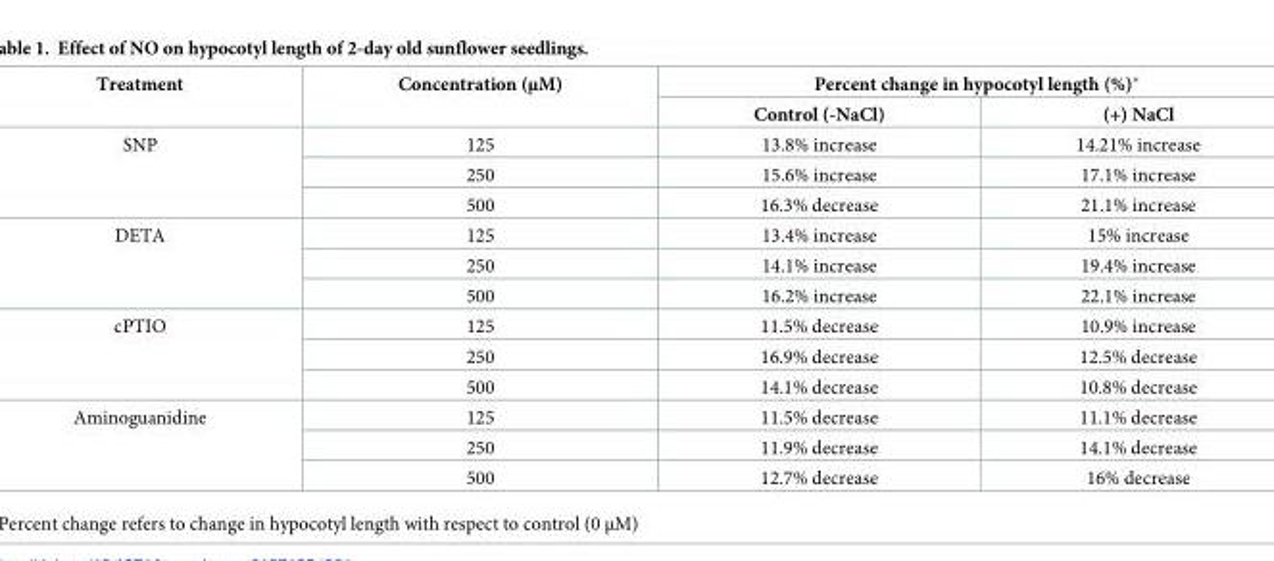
<table><thead><tr><td rowspan="2">Treatment</td><td rowspan="2">Concentration (μM)</td><td colspan="2">Percent change in hypocotyl length (%)*</td></tr><tr><td>Control (-NaCl)</td><td>(+) NaCl</td></tr></thead><tbody><tr><td rowspan="3">SNP</td><td>125</td><td>13.8% increase</td><td>14.21% increase</td></tr><tr><td>250</td><td>15.6% increase</td><td>17.1% increase</td></tr><tr><td>500</td><td>16.3% decrease</td><td>21.1% increase</td></tr><tr><td rowspan="3">DETA</td><td>125</td><td>13.4% increase</td><td>15% increase</td></tr><tr><td>250</td><td>14.1% increase</td><td>19.4% increase</td></tr><tr><td>500</td><td>16.2% increase</td><td>22.1% increase</td></tr><tr><td rowspan="3">cPTIO</td><td>125</td><td>11.5% decrease</td><td>10.9% increase</td></tr><tr><td>250</td><td>16.9% decrease</td><td>12.5% decrease</td></tr><tr><td>500</td><td>14.1% decrease</td><td>10.8% decrease</td></tr><tr><td rowspan="3">Aminoguanidine</td><td>125</td><td>11.5% decrease</td><td>11.1% decrease</td></tr><tr><td>250</td><td>11.9% decrease</td><td>14.1% decrease</td></tr><tr><td>500</td><td>12.7% decrease</td><td>16% decrease</td></tr></tbody></table>